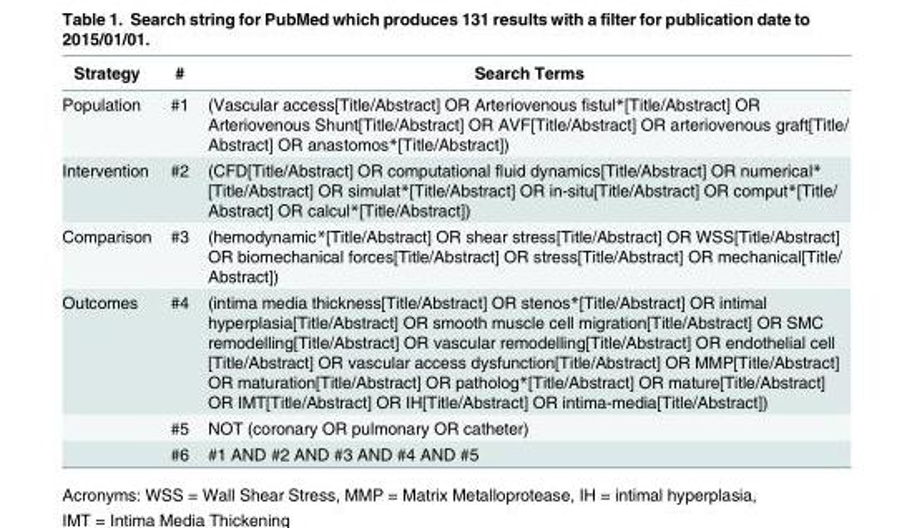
<table><thead><tr><td>Strategy</td><td>#</td><td>Search Terms</td></tr></thead><tbody><tr><td>Population</td><td>#1</td><td>(Vascular access[Title/Abstract] OR Arteriovenous fistul*[Title/Abstract] OR Arteriovenous Shunt[Title/Abstract] OR AVF[Title/Abstract] OR arteriovenous graft[Title/ Abstract] OR anastomos*[Title/Abstract])</td></tr><tr><td>Intervention</td><td>#2</td><td>(CFD[Title/Abstract] OR computational fluid dynamics[Title/Abstract] OR numerical* [Title/Abstract] OR simulat*[Title/Abstract] OR in-situ[Title/Abstract] OR comput*[Title/ Abstract] OR calcul*[Title/Abstract])</td></tr><tr><td>Comparison</td><td>#3</td><td>(hemodynamic*[Title/Abstract] OR shear stress[Title/Abstract] OR WSS[Title/Abstract] OR biomechanical forces[Title/Abstract] OR stress[Title/Abstract] OR mechanical[Title/ Abstract])</td></tr><tr><td rowspan="3">Outcomes</td><td>#4</td><td>(intima media thickness[Title/Abstract] OR stenos*[Title/Abstract] OR intimal hyperplasia[Title/Abstract] OR smooth muscle cell migration[Title/Abstract] OR SMC remodelling[Title/Abstract] OR vascular remodelling[Title/Abstract] OR endothelial cell [Title/Abstract] OR vascular access dysfunction[Title/Abstract] OR MMP[Title/Abstract] OR maturation[Title/Abstract] OR patholog*[Title/Abstract] OR mature[Title/Abstract] OR IMT[Title/Abstract] OR IH[Title/Abstract] OR intima-media[Title/Abstract])</td></tr><tr><td>#5</td><td>NOT (coronary OR pulmonary OR catheter)</td></tr><tr><td>#6</td><td>#1 AND #2 AND #3 AND #4 AND #5</td></tr></tbody></table>